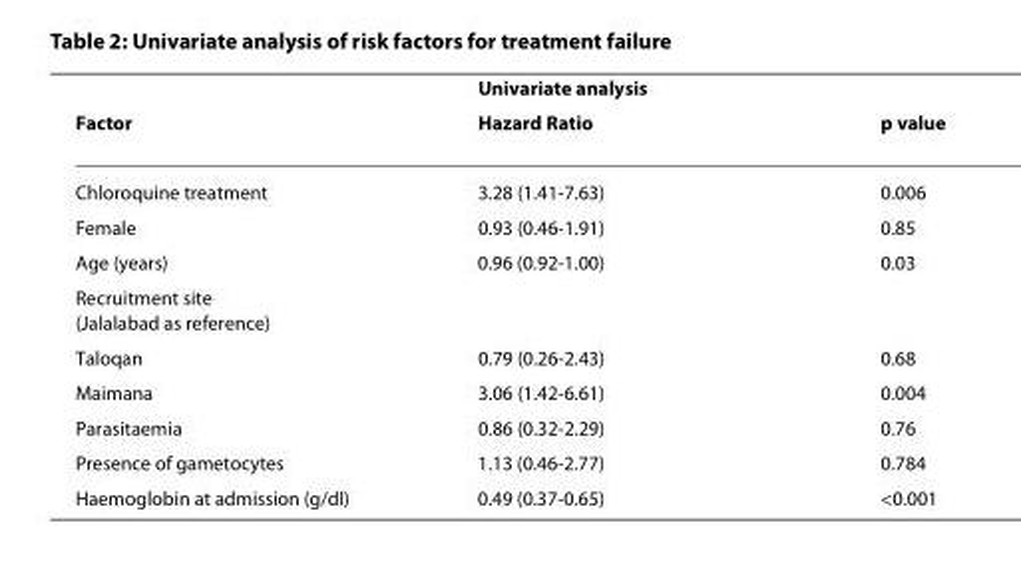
<table><thead><tr><td rowspan="2">Factor</td><td colspan="2">Univariate analysis</td></tr><tr><td>Hazard Ratio</td><td>p value</td></tr></thead><tbody><tr><td>Chloroquine treatment</td><td>3.28 (1.41-7.63)</td><td>0.006</td></tr><tr><td>Female</td><td>0.93 (0.46-1.91)</td><td>0.85</td></tr><tr><td>Age (years)</td><td>0.96 (0.92-1.00)</td><td>0.03</td></tr><tr><td colspan="3">Recruitment site (Jalalabad as reference)</td></tr><tr><td>Taloqan</td><td>0.79 (0.26-2.43)</td><td>0.68</td></tr><tr><td>Maimana</td><td>3.06 (1.42-6.61)</td><td>0.004</td></tr><tr><td>Parasitaemia</td><td>0.86 (0.32-2.29)</td><td>0.76</td></tr><tr><td>Presence of gametocytes</td><td>1.13 (0.46-2.77)</td><td>0.784</td></tr><tr><td>Haemoglobin at admission (g/dl)</td><td>0.49 (0.37-0.65)</td><td>&lt;0.001</td></tr></tbody></table>